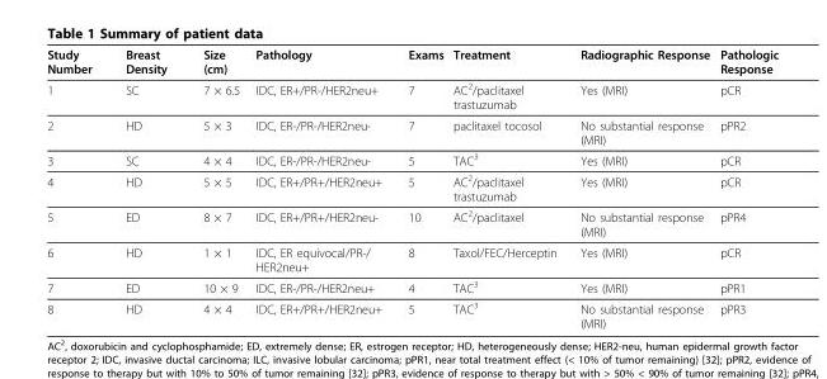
<table><thead><tr><td>Study Number</td><td>Breast Density</td><td>Size (cm)</td><td>Pathology</td><td>Exams</td><td>Treatment</td><td>Radiographic Response</td><td>Pathologic Response</td></tr></thead><tbody><tr><td>1</td><td>SC</td><td>7 × 6.5</td><td>IDC, ER+/PR-/HER2neu+</td><td>7</td><td>AC<sup>2</sup>/paclitaxel trastuzumab</td><td>Yes (MRI)</td><td>pCR</td></tr><tr><td>2</td><td>HD</td><td>5 × 3</td><td>IDC, ER-/PR-/HER2neu-</td><td>7</td><td>paclitaxel tocosol</td><td>No substantial response (MRI)</td><td>pPR2</td></tr><tr><td>3</td><td>SC</td><td>4 × 4</td><td>IDC, ER-/PR-/HER2neu-</td><td>5</td><td>TAC<sup>3</sup></td><td>Yes (MRI)</td><td>pCR</td></tr><tr><td>4</td><td>HD</td><td>5 × 5</td><td>IDC, ER+/PR+/HER2neu+</td><td>5</td><td>AC<sup>2</sup>/paclitaxel trastuzumab</td><td>Yes (MRI)</td><td>pCR</td></tr><tr><td>5</td><td>ED</td><td>8 × 7</td><td>IDC, ER+/PR+/HER2neu-</td><td>10</td><td>AC<sup>2</sup>/paclitaxel</td><td>No substantial response (MRI)</td><td>pPR4</td></tr><tr><td>6</td><td>HD</td><td>1 × 1</td><td>IDC, ER equivocal/PR-/ HER2neu+</td><td>8</td><td>Taxol/FEC/Herceptin</td><td>Yes (MRI)</td><td>pCR</td></tr><tr><td>7</td><td>ED</td><td>10 × 9</td><td>IDC, ER-/PR-/HER2neu+</td><td>4</td><td>TAC<sup>3</sup></td><td>Yes (MRI)</td><td>pPR1</td></tr><tr><td>8</td><td>HD</td><td>4 × 4</td><td>IDC, ER+/PR+/HER2neu+</td><td>5</td><td>TAC<sup>3</sup></td><td>No substantial response (MRI)</td><td>pPR3</td></tr></tbody></table>